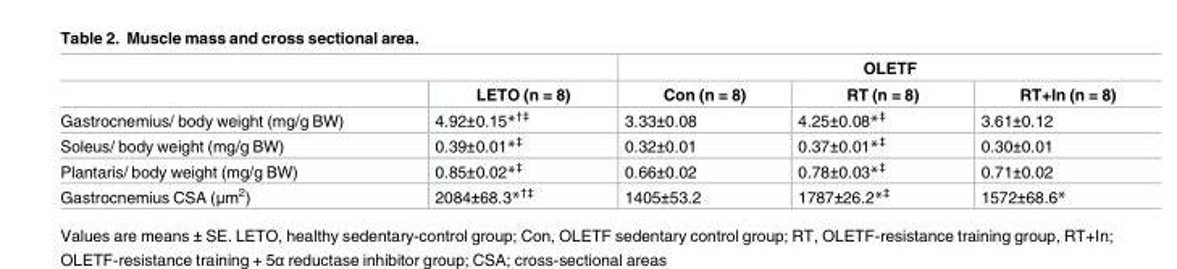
<table><thead><tr><td rowspan="2"></td><td rowspan="2">LETO (n = 8)</td><td colspan="3">OLETF</td></tr><tr><td>Con (n = 8)</td><td>RT (n = 8)</td><td>RT+In (n = 8)</td></tr></thead><tbody><tr><td>Gastrocnemius/ body weight (mg/g BW)</td><td>4.92±0.15*<sup>†‡</sup></td><td>3.33±0.08</td><td>4.25±0.08*<sup>‡</sup></td><td>3.61±0.12</td></tr><tr><td>Soleus/ body weight (mg/g BW)</td><td>0.39±0.01*<sup>‡</sup></td><td>0.32±0.01</td><td>0.37±0.01*<sup>‡</sup></td><td>0.30±0.01</td></tr><tr><td>Plantaris/ body weight (mg/g BW)</td><td>0.85±0.02*<sup>‡</sup></td><td>0.66±0.02</td><td>0.78±0.03*<sup>‡</sup></td><td>0.71±0.02</td></tr><tr><td>Gastrocnemius CSA (μm<sup>2</sup>)</td><td>2084±68.3*<sup>†‡</sup></td><td>1405±53.2</td><td>1787±26.2*<sup>‡</sup></td><td>1572±68.6*</td></tr></tbody></table>